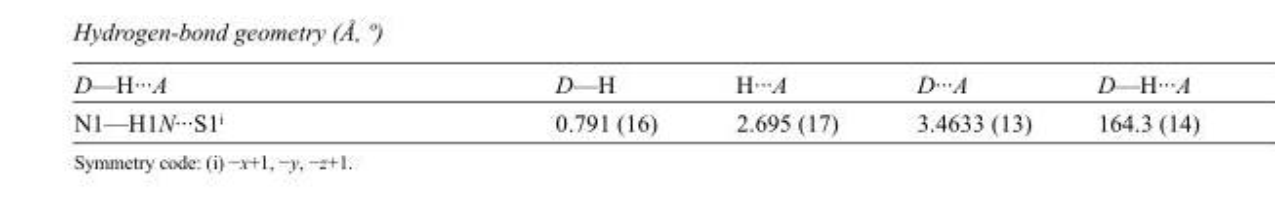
<table><tbody><tr><td>D—H···A</td><td>D—H</td><td>H···A</td><td>D···A</td><td>D—H···A</td></tr><tr><td>N1—H1N···S1<sup>i</sup></td><td>0.791 (16)</td><td>2.695 (17)</td><td>3.4633 (13)</td><td>164.3 (14)</td></tr></tbody></table>